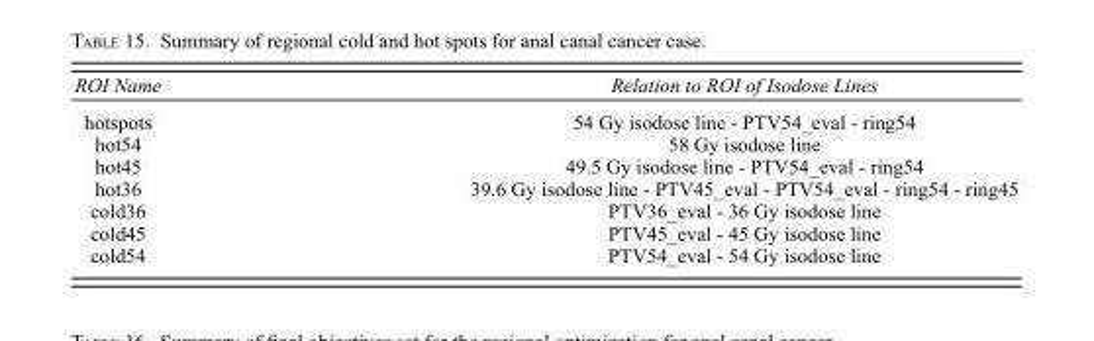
<table><thead><tr><td>ROI Name</td><td>Relation to ROI of Isodose Lines</td></tr></thead><tbody><tr><td>hotspots</td><td>54 Gy isodose line - PTV54_eval - ring54</td></tr><tr><td>hot54</td><td>58 Gy isodose line</td></tr><tr><td>hot45</td><td>49.5 Gy isodose line - PTV54_eval - ring54</td></tr><tr><td>hot36</td><td>39.6 Gy isodose line - PTV45_eval - PTV54_eval - ring54 - ring45</td></tr><tr><td>cold36</td><td>PTV36_eval - 36 Gy isodose line</td></tr><tr><td>cold45</td><td>PTV45_eval - 45 Gy isodose line</td></tr><tr><td>cold54</td><td>PTV54_eval - 54 Gy isodose line</td></tr></tbody></table>